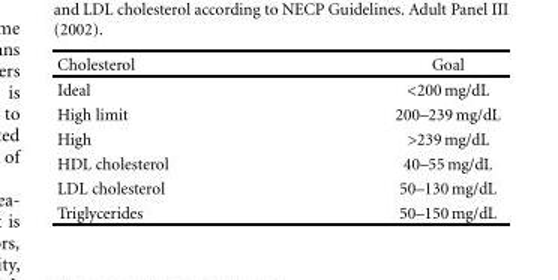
<table><thead><tr><td>Cholesterol</td><td>Goal</td></tr></thead><tbody><tr><td>Ideal</td><td>&lt;200mg/dL</td></tr><tr><td>High limit</td><td>200–239 mg/dL</td></tr><tr><td>High</td><td>&gt;239mg/dL</td></tr><tr><td>HDL cholesterol</td><td>40–55 mg/dL</td></tr><tr><td>LDL cholesterol</td><td>50–130 mg/dL</td></tr><tr><td>Triglycerides</td><td>50–150 mg/dL</td></tr></tbody></table>